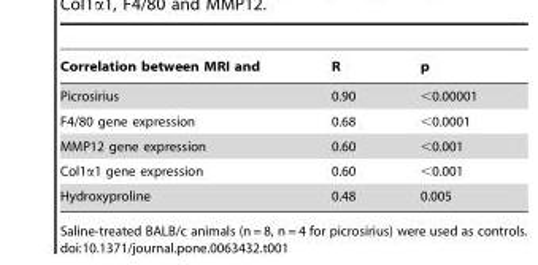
<table><thead><tr><td>Correlation between MRI and</td><td>R</td><td>p</td></tr></thead><tbody><tr><td>Picrosirius</td><td>0.90</td><td>&lt;0.00001</td></tr><tr><td>F4/80 gene expression</td><td>0.68</td><td>&lt;0.0001</td></tr><tr><td>MMP12 gene expression</td><td>0.60</td><td>&lt;0.001</td></tr><tr><td>Col1α1 gene expression</td><td>0.60</td><td>&lt;0.001</td></tr><tr><td>Hydroxyproline</td><td>0.48</td><td>0.005</td></tr></tbody></table>